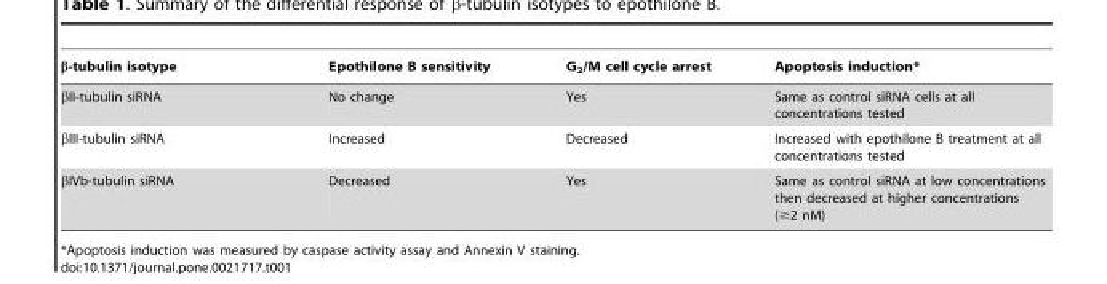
<table><thead><tr><td>β-tubulin isotype</td><td>Epothilone B sensitivity</td><td>G<sub>2</sub>/M cell cycle arrest</td><td>Apoptosis induction*</td></tr></thead><tbody><tr><td>βII-tubulin siRNA</td><td>No change</td><td>Yes</td><td>Same as control siRNA cells at all concentrations tested</td></tr><tr><td>βIII-tubulin siRNA</td><td>Increased</td><td>Decreased</td><td>Increased with epothilone B treatment at all concentrations tested</td></tr><tr><td>βIVb-tubulin siRNA</td><td>Decreased</td><td>Yes</td><td>Same as control siRNA at low concentrations then decreased at higher concentrations (≥2 nM)</td></tr></tbody></table>